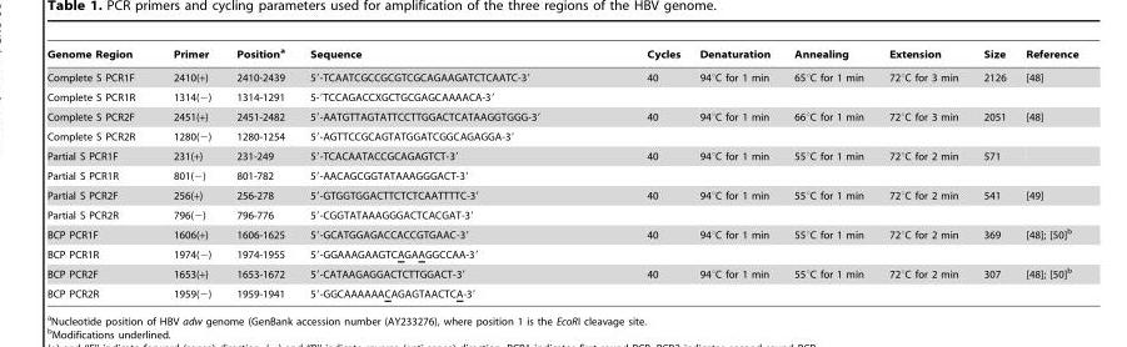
<table><thead><tr><td>Genome Region</td><td>Primer</td><td>Position<sup>a</sup></td><td>Sequence</td><td>Cycles</td><td>Denaturation</td><td>Annealing</td><td>Extension</td><td>Size</td><td>Reference</td></tr></thead><tbody><tr><td>Complete S PCR1F</td><td>2410(+)</td><td>2410-2439</td><td>5′-TCAATCGCCGCGTCGCAGAAGATCTCAATC-3′</td><td>40</td><td>94°C for 1 min</td><td>65°C for 1 min</td><td>72°C for 3 min</td><td>2126</td><td>[48]</td></tr><tr><td>Complete S PCR1R</td><td>1314(−)</td><td>1314-1291</td><td>5-′TCCAGACCXGCTGCGAGCAAAACA-3′</td><td></td><td></td><td></td><td></td><td></td><td></td></tr><tr><td>Complete S PCR2F</td><td>2451(+)</td><td>2451-2482</td><td>5′-AATGTTAGTATTCCTTGGACTCATAAGGTGGG-3′</td><td>40</td><td>94°C for 1 min</td><td>66°C for 1 min</td><td>72°C for 3 min</td><td>2051</td><td>[48]</td></tr><tr><td>Complete S PCR2R</td><td>1280(−)</td><td>1280-1254</td><td>5′-AGTTCCGCAGTATGGATCGGCAGAGGA-3′</td><td></td><td></td><td></td><td></td><td></td><td></td></tr><tr><td>Partial S PCR1F</td><td>231(+)</td><td>231-249</td><td>5′-TCACAATACCGCAGAGTCT-3′</td><td>40</td><td>94°C for 1 min</td><td>55°C for 1 min</td><td>72°C for 2 min</td><td>571</td><td></td></tr><tr><td>Partial S PCR1R</td><td>801(−)</td><td>801-782</td><td>5′-AACAGCGGTATAAAGGGACT-3′</td><td></td><td></td><td></td><td></td><td></td><td></td></tr><tr><td>Partial S PCR2F</td><td>256(+)</td><td>256-278</td><td>5′-GTGGTGGACTTCTCTCAATTTTC-3′</td><td>40</td><td>94°C for 1 min</td><td>55°C for 1 min</td><td>72°C for 2 min</td><td>541</td><td>[49]</td></tr><tr><td>Partial S PCR2R</td><td>796(−)</td><td>796-776</td><td>5′-CGGTATAAAGGGACTCACGAT-3′</td><td></td><td></td><td></td><td></td><td></td><td></td></tr><tr><td>BCP PCR1F</td><td>1606(+)</td><td>1606-1625</td><td>5′-GCATGGAGACCACCGTGAAC-3′</td><td>40</td><td>94°C for 1 min</td><td>55°C for 1 min</td><td>72°C for 2 min</td><td>369</td><td>[48]; [50]b</td></tr><tr><td>BCP PCR1R</td><td>1974(−)</td><td>1974-1955</td><td>5′-GGAAAGAAGTCAGAAGGCCAA-3′</td><td></td><td></td><td></td><td></td><td></td><td></td></tr><tr><td>BCP PCR2F</td><td>1653(+)</td><td>1653-1672</td><td>5′-CATAAGAGGACTCTTGGACT-3′</td><td>40</td><td>94°C for 1 min</td><td>55°C for 1 min</td><td>72°C for 2 min</td><td>307</td><td>[48]; [50]b</td></tr><tr><td>BCP PCR2R</td><td>1959(−)</td><td>1959-1941</td><td>5′-GGCAAAAAACAGAGTAACTCA-3′</td><td></td><td></td><td></td><td></td><td></td><td></td></tr></tbody></table>